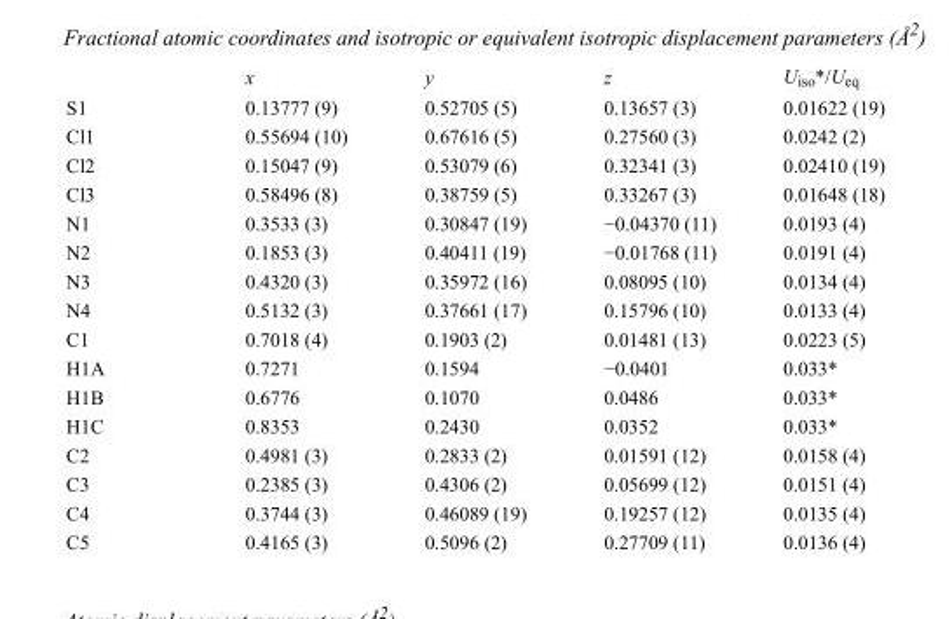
<table><thead><tr><td></td><td>x</td><td>y</td><td>z</td><td>U<sub>iso</sub>*/U<sub>eq</sub></td></tr></thead><tbody><tr><td>S1</td><td>0.13777 (9)</td><td>0.52705 (5)</td><td>0.13657 (3)</td><td>0.01622 (19)</td></tr><tr><td>Cl1</td><td>0.55694 (10)</td><td>0.67616 (5)</td><td>0.27560 (3)</td><td>0.0242 (2)</td></tr><tr><td>Cl2</td><td>0.15047 (9)</td><td>0.53079 (6)</td><td>0.32341 (3)</td><td>0.02410 (19)</td></tr><tr><td>Cl3</td><td>0.58496 (8)</td><td>0.38759 (5)</td><td>0.33267 (3)</td><td>0.01648 (18)</td></tr><tr><td>N1</td><td>0.3533 (3)</td><td>0.30847 (19)</td><td>−0.04370 (11)</td><td>0.0193 (4)</td></tr><tr><td>N2</td><td>0.1853 (3)</td><td>0.40411 (19)</td><td>−0.01768 (11)</td><td>0.0191 (4)</td></tr><tr><td>N3</td><td>0.4320 (3)</td><td>0.35972 (16)</td><td>0.08095 (10)</td><td>0.0134 (4)</td></tr><tr><td>N4</td><td>0.5132 (3)</td><td>0.37661 (17)</td><td>0.15796 (10)</td><td>0.0133 (4)</td></tr><tr><td>C1</td><td>0.7018 (4)</td><td>0.1903 (2)</td><td>0.01481 (13)</td><td>0.0223 (5)</td></tr><tr><td>H1A</td><td>0.7271</td><td>0.1594</td><td>−0.0401</td><td>0.033*</td></tr><tr><td>H1B</td><td>0.6776</td><td>0.1070</td><td>0.0486</td><td>0.033*</td></tr><tr><td>H1C</td><td>0.8353</td><td>0.2430</td><td>0.0352</td><td>0.033*</td></tr><tr><td>C2</td><td>0.4981 (3)</td><td>0.2833 (2)</td><td>0.01591 (12)</td><td>0.0158 (4)</td></tr><tr><td>C3</td><td>0.2385 (3)</td><td>0.4306 (2)</td><td>0.05699 (12)</td><td>0.0151 (4)</td></tr><tr><td>C4</td><td>0.3744 (3)</td><td>0.46089 (19)</td><td>0.19257 (12)</td><td>0.0135 (4)</td></tr><tr><td>C5</td><td>0.4165 (3)</td><td>0.5096 (2)</td><td>0.27709 (11)</td><td>0.0136 (4)</td></tr></tbody></table>